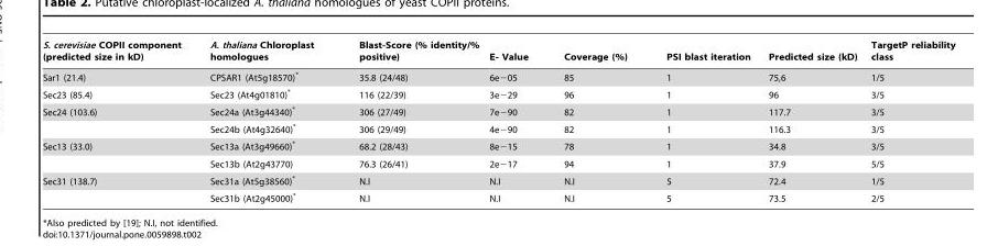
<table><thead><tr><td>S. cerevisiae COPII component (predicted size in kD)</td><td>A. thaliana Chloroplast homologues</td><td>Blast-Score (% identity/% positive)</td><td>E- Value</td><td>Coverage (%)</td><td>PSI blast iteration</td><td>Predicted size (kD)</td><td>TargetP reliability class</td></tr></thead><tbody><tr><td>Sar1 (21.4)</td><td>CPSAR1 (At5g18570)*</td><td>35.8 (24/48)</td><td>6e−05</td><td>85</td><td>1</td><td>75,6</td><td>1/5</td></tr><tr><td>Sec23 (85.4)</td><td>Sec23 (At4g01810)*</td><td>116 (22/39)</td><td>3e−29</td><td>96</td><td>1</td><td>96</td><td>3/5</td></tr><tr><td rowspan="2">Sec24 (103.6)</td><td>Sec24a (At3g44340)*</td><td>306 (27/49)</td><td>7e−90</td><td>82</td><td>1</td><td>117.7</td><td>3/5</td></tr><tr><td>Sec24b (At4g32640)*</td><td>306 (29/49)</td><td>4e−90</td><td>82</td><td>1</td><td>116.3</td><td>3/5</td></tr><tr><td rowspan="2">Sec13 (33.0)</td><td>Sec13a (At3g49660)*</td><td>68.2 (28/43)</td><td>8e−15</td><td>78</td><td>1</td><td>34.8</td><td>3/5</td></tr><tr><td>Sec13b (At2g43770)</td><td>76.3 (26/41)</td><td>2e−17</td><td>94</td><td>1</td><td>37.9</td><td>5/5</td></tr><tr><td rowspan="2">Sec31 (138.7)</td><td>Sec31a (At5g38560)*</td><td>N.I</td><td>N.I</td><td>N.I</td><td>5</td><td>72.4</td><td>1/5</td></tr><tr><td>Sec31b (At2g45000)*</td><td>N.I</td><td>N.I</td><td>N.I</td><td>5</td><td>73.5</td><td>2/5</td></tr></tbody></table>